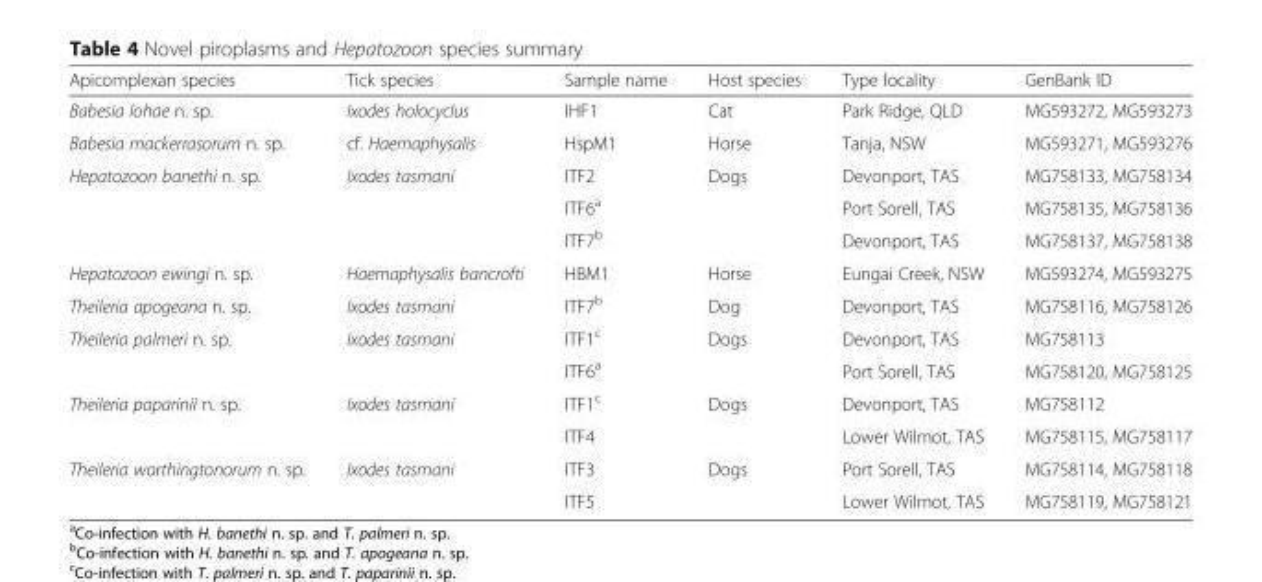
<table><thead><tr><td>Apicomplexan species</td><td>Tick species</td><td>Sample name</td><td>Host species</td><td>Type locality</td><td>GenBank ID</td></tr></thead><tbody><tr><td>Babesia lohae n. sp.</td><td>Ixodes holocyclus</td><td>IHF1</td><td>Cat</td><td>Park Ridge, QLD</td><td>MG593272, MG593273</td></tr><tr><td>Babesia mackerrasorum n. sp.</td><td>cf. Haemaphysalis</td><td>HspM1</td><td>Horse</td><td>Tanja, NSW</td><td>MG593271, MG593276</td></tr><tr><td rowspan="3">Hepatozoon banethi n. sp.</td><td rowspan="3">Ixodes tasmani</td><td>ITF2</td><td rowspan="3">Dogs</td><td>Devonport, TAS</td><td>MG758133, MG758134</td></tr><tr><td>ITF6<sup>a</sup></td><td>Port Sorell, TAS</td><td>MG758135, MG758136</td></tr><tr><td>ITF7<sup>b</sup></td><td>Devonport, TAS</td><td>MG758137, MG758138</td></tr><tr><td>Hepatozoon ewingi n. sp.</td><td>Haemaphysalis bancrofti</td><td>HBM1</td><td>Horse</td><td>Eungai Creek, NSW</td><td>MG593274, MG593275</td></tr><tr><td>Theileria apogeana n. sp.</td><td>Ixodes tasmani</td><td>ITF7<sup>b</sup></td><td>Dog</td><td>Devonport, TAS</td><td>MG758116, MG758126</td></tr><tr><td rowspan="2">Theileria palmeri n. sp.</td><td rowspan="2">Ixodes tasmani</td><td>ITF1<sup>c</sup></td><td rowspan="2">Dogs</td><td>Devonport, TAS</td><td>MG758113</td></tr><tr><td>ITF6<sup>a</sup></td><td>Port Sorell, TAS</td><td>MG758120, MG758125</td></tr><tr><td rowspan="2">Theileria paparinii n. sp.</td><td rowspan="2">Ixodes tasmani</td><td>ITF1<sup>c</sup></td><td rowspan="2">Dogs</td><td>Devonport, TAS</td><td>MG758112</td></tr><tr><td>ITF4</td><td>Lower Wilmot, TAS</td><td>MG758115, MG758117</td></tr><tr><td rowspan="2">Theileria worthingtonorum n. sp.</td><td rowspan="2">Ixodes tasmani</td><td>ITF3</td><td rowspan="2">Dogs</td><td>Port Sorell, TAS</td><td>MG758114, MG758118</td></tr><tr><td>ITF5</td><td>Lower Wilmot, TAS</td><td>MG758119, MG758121</td></tr></tbody></table>